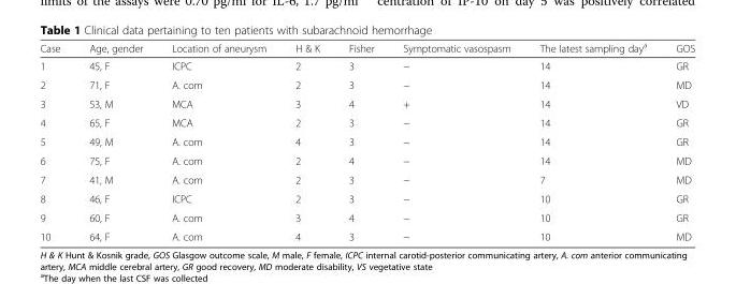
<table><thead><tr><td>Case</td><td>Age, gender</td><td>Location of aneurysm</td><td>H &amp; K</td><td>Fisher</td><td>Symptomatic vasospasm</td><td>The latest sampling day<sup>a</sup></td><td>GOS</td></tr></thead><tbody><tr><td>1</td><td>45, F</td><td>ICPC</td><td>2</td><td>3</td><td>−</td><td>14</td><td>GR</td></tr><tr><td>2</td><td>71, F</td><td>A. com</td><td>2</td><td>3</td><td>−</td><td>14</td><td>MD</td></tr><tr><td>3</td><td>53, M</td><td>MCA</td><td>3</td><td>4</td><td>+</td><td>14</td><td>VD</td></tr><tr><td>4</td><td>65, F</td><td>MCA</td><td>2</td><td>3</td><td>−</td><td>14</td><td>GR</td></tr><tr><td>5</td><td>49, M</td><td>A. com</td><td>4</td><td>3</td><td>−</td><td>14</td><td>GR</td></tr><tr><td>6</td><td>75, F</td><td>A. com</td><td>2</td><td>4</td><td>−</td><td>14</td><td>MD</td></tr><tr><td>7</td><td>41, M</td><td>A. com</td><td>2</td><td>3</td><td>−</td><td>7</td><td>MD</td></tr><tr><td>8</td><td>46, F</td><td>ICPC</td><td>2</td><td>3</td><td>−</td><td>10</td><td>GR</td></tr><tr><td>9</td><td>60, F</td><td>A. com</td><td>3</td><td>4</td><td>−</td><td>10</td><td>GR</td></tr><tr><td>10</td><td>64, F</td><td>A. com</td><td>4</td><td>3</td><td>−</td><td>10</td><td>MD</td></tr></tbody></table>